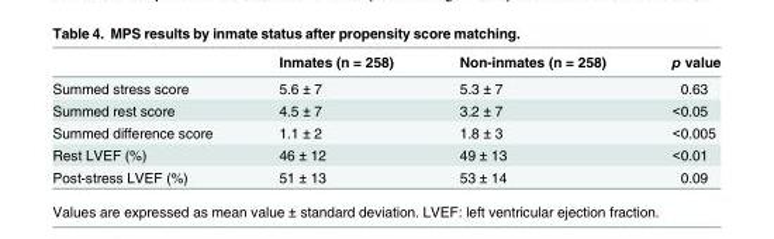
<table><thead><tr><td></td><td>Inmates (n = 258)</td><td>Non-inmates (n = 258)</td><td>p value</td></tr></thead><tbody><tr><td>Summed stress score</td><td>5.6 ± 7</td><td>5.3 ± 7</td><td>0.63</td></tr><tr><td>Summed rest score</td><td>4.5 ± 7</td><td>3.2 ± 7</td><td>&lt;0.05</td></tr><tr><td>Summed difference score</td><td>1.1 ± 2</td><td>1.8 ± 3</td><td>&lt;0.005</td></tr><tr><td>Rest LVEF (%)</td><td>46 ± 12</td><td>49 ± 13</td><td>&lt;0.01</td></tr><tr><td>Post-stress LVEF (%)</td><td>51 ± 13</td><td>53 ± 14</td><td>0.09</td></tr></tbody></table>